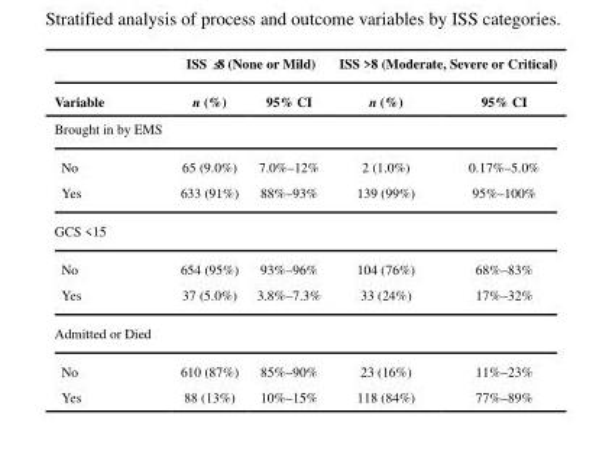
<table><thead><tr><td rowspan="2">Variable</td><td colspan="2">ISS ≤8 (None or Mild)</td><td colspan="2">ISS &gt;8 (Moderate, Severe or Critical)</td></tr><tr><td>n (%)</td><td>95% CI</td><td>n (%)</td><td>95% CI</td></tr></thead><tbody><tr><td colspan="5">Brought in by EMS</td></tr><tr><td>No</td><td>65 (9.0%)</td><td>7.0%–12%</td><td>2 (1.0%)</td><td>0.17%–5.0%</td></tr><tr><td>Yes</td><td>633 (91%)</td><td>88%–93%</td><td>139 (99%)</td><td>95%–100%</td></tr><tr><td colspan="5">GCS &lt;15</td></tr><tr><td>No</td><td>654 (95%)</td><td>93%–96%</td><td>104 (76%)</td><td>68%–83%</td></tr><tr><td>Yes</td><td>37 (5.0%)</td><td>3.8%–7.3%</td><td>33 (24%)</td><td>17%–32%</td></tr><tr><td colspan="5">Admitted or Died</td></tr><tr><td>No</td><td>610 (87%)</td><td>85%–90%</td><td>23 (16%)</td><td>11%–23%</td></tr><tr><td>Yes</td><td>88 (13%)</td><td>10%–15%</td><td>118 (84%)</td><td>77%–89%</td></tr></tbody></table>